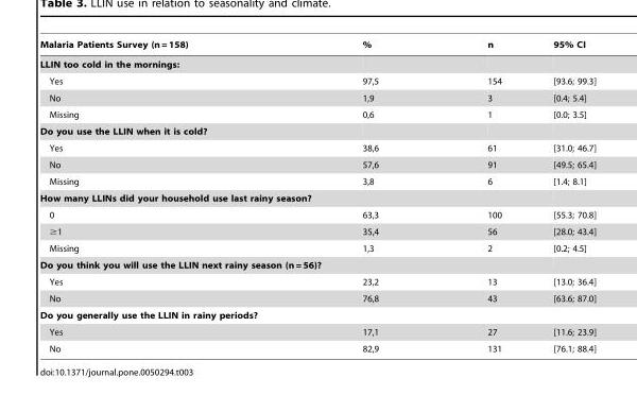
<table><thead><tr><td>Malaria Patients Survey (n = 158)</td><td>%</td><td>n</td><td>95% CI</td></tr></thead><tbody><tr><td colspan="4">LLIN too cold in the mornings:</td></tr><tr><td>Yes</td><td>97,5</td><td>154</td><td>[93.6; 99.3]</td></tr><tr><td>No</td><td>1,9</td><td>3</td><td>[0.4; 5.4]</td></tr><tr><td>Missing</td><td>0,6</td><td>1</td><td>[0.0; 3.5]</td></tr><tr><td colspan="4">Do you use the LLIN when it is cold?</td></tr><tr><td>Yes</td><td>38,6</td><td>61</td><td>[31.0; 46.7]</td></tr><tr><td>No</td><td>57,6</td><td>91</td><td>[49.5; 65.4]</td></tr><tr><td>Missing</td><td>3,8</td><td>6</td><td>[1.4; 8.1]</td></tr><tr><td colspan="4">How many LLINs did your household use last rainy season?</td></tr><tr><td>0</td><td>63,3</td><td>100</td><td>[55.3; 70.8]</td></tr><tr><td>≥1</td><td>35,4</td><td>56</td><td>[28.0; 43.4]</td></tr><tr><td>Missing</td><td>1,3</td><td>2</td><td>[0.2; 4.5]</td></tr><tr><td colspan="4">Do you think you will use the LLIN next rainy season (n = 56)?</td></tr><tr><td>Yes</td><td>23,2</td><td>13</td><td>[13.0; 36.4]</td></tr><tr><td>No</td><td>76,8</td><td>43</td><td>[63.6; 87.0]</td></tr><tr><td colspan="4">Do you generally use the LLIN in rainy periods?</td></tr><tr><td>Yes</td><td>17,1</td><td>27</td><td>[11.6; 23.9]</td></tr><tr><td>No</td><td>82,9</td><td>131</td><td>[76.1; 88.4]</td></tr></tbody></table>